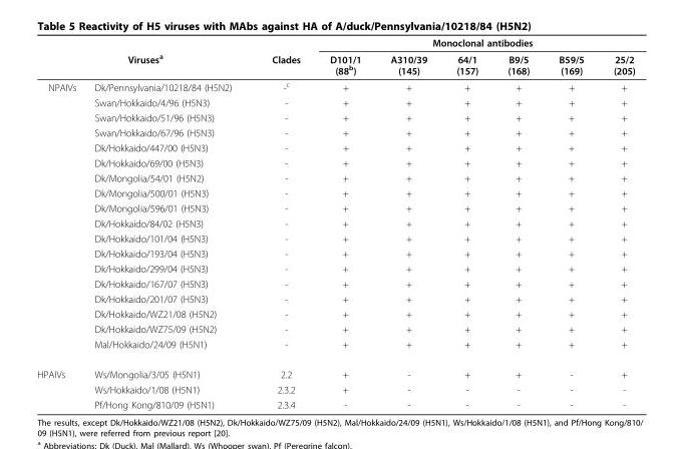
<table><thead><tr><td></td><td></td><td rowspan="2">Clades</td><td colspan="6">Monoclonal antibodies</td></tr><tr><td colspan="2">Viruses<sup>a</sup></td><td>D101/1 (88<sup>b</sup>)</td><td>A310/39 (145)</td><td>64/1 (157)</td><td>B9/5 (168)</td><td>B59/5 (169)</td><td>25/2 (205)</td></tr></thead><tbody><tr><td rowspan="18">NPAIVs</td><td>Dk/Pennsylvania/10218/84 (H5N2)</td><td>-<sup>c</sup></td><td>+</td><td>+</td><td>+</td><td>+</td><td>+</td><td>+</td></tr><tr><td>Swan/Hokkaido/4/96 (H5N3)</td><td>-</td><td>+</td><td>+</td><td>+</td><td>+</td><td>+</td><td>+</td></tr><tr><td>Swan/Hokkaido/51/96 (H5N3)</td><td>-</td><td>+</td><td>+</td><td>+</td><td>+</td><td>+</td><td>+</td></tr><tr><td>Swan/Hokkaido/67/96 (H5N3)</td><td>-</td><td>+</td><td>+</td><td>+</td><td>+</td><td>+</td><td>+</td></tr><tr><td>Dk/Hokkaido/447/00 (H5N3)</td><td>-</td><td>+</td><td>+</td><td>+</td><td>+</td><td>+</td><td>+</td></tr><tr><td>Dk/Hokkaido/69/00 (H5N3)</td><td>-</td><td>+</td><td>+</td><td>+</td><td>+</td><td>+</td><td>+</td></tr><tr><td>Dk/Mongolia/54/01 (H5N2)</td><td>-</td><td>+</td><td>+</td><td>+</td><td>+</td><td>+</td><td>+</td></tr><tr><td>Dk/Mongolia/500/01 (H5N3)</td><td>-</td><td>+</td><td>+</td><td>+</td><td>+</td><td>+</td><td>+</td></tr><tr><td>Dk/Mongolia/596/01 (H5N3)</td><td>-</td><td>+</td><td>+</td><td>+</td><td>+</td><td>+</td><td>+</td></tr><tr><td>Dk/Hokkaido/84/02 (H5N3)</td><td>-</td><td>+</td><td>+</td><td>+</td><td>+</td><td>+</td><td>+</td></tr><tr><td>Dk/Hokkaido/101/04 (H5N3)</td><td>-</td><td>+</td><td>+</td><td>+</td><td>+</td><td>+</td><td>+</td></tr><tr><td>Dk/Hokkaido/193/04 (H5N3)</td><td>-</td><td>+</td><td>+</td><td>+</td><td>+</td><td>+</td><td>+</td></tr><tr><td>Dk/Hokkaido/299/04 (H5N3)</td><td>-</td><td>+</td><td>+</td><td>+</td><td>+</td><td>+</td><td>+</td></tr><tr><td>Dk/Hokkaido/167/07 (H5N3)</td><td>-</td><td>+</td><td>+</td><td>+</td><td>+</td><td>+</td><td>+</td></tr><tr><td>Dk/Hokkaido/201/07 (H5N3)</td><td>-</td><td>+</td><td>+</td><td>+</td><td>+</td><td>+</td><td>+</td></tr><tr><td>Dk/Hokkaido/WZ21/08 (H5N2)</td><td>-</td><td>+</td><td>+</td><td>+</td><td>+</td><td>+</td><td>+</td></tr><tr><td>Dk/Hokkaido/WZ75/09 (H5N2)</td><td>-</td><td>+</td><td>+</td><td>+</td><td>+</td><td>+</td><td>+</td></tr><tr><td>Mal/Hokkaido/24/09 (H5N1)</td><td>-</td><td>+</td><td>+</td><td>+</td><td>+</td><td>+</td><td>+</td></tr><tr><td rowspan="3">HPAIVs</td><td>Ws/Mongolia/3/05 (H5N1)</td><td>2.2</td><td>+</td><td>-</td><td>+</td><td>+</td><td>-</td><td>+</td></tr><tr><td>Ws/Hokkaido/1/08 (H5N1)</td><td>2.3.2</td><td>+</td><td>-</td><td>-</td><td>-</td><td>-</td><td>-</td></tr><tr><td>Pf/Hong Kong/810/09 (H5N1)</td><td>2.3.4</td><td>-</td><td>-</td><td>-</td><td>-</td><td>-</td><td>-</td></tr></tbody></table>